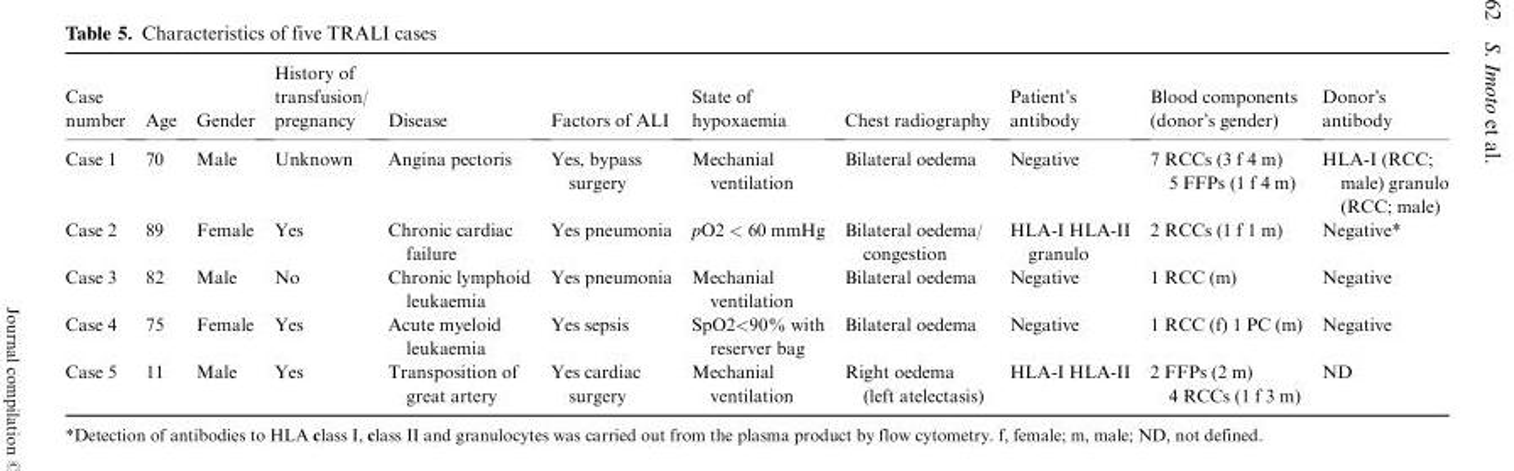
<table><thead><tr><td>Case number</td><td>Age</td><td>Gender</td><td>History of transfusion/ pregnancy</td><td>Disease</td><td>Factors of ALI</td><td>State of hypoxaemia</td><td>Chest radiography</td><td>Patient&#x27;s antibody</td><td>Blood components (donor&#x27;s gender)</td><td>Donor&#x27;s antibody</td></tr></thead><tbody><tr><td>Case 1</td><td>70</td><td>Male</td><td>Unknown</td><td>Angina pectoris</td><td>Yes, bypass surgery</td><td>Mechanial ventilation</td><td>Bilateral oedema</td><td>Negative</td><td>7 RCCs (3 f 4 m) 5 FFPs (1 f 4 m)</td><td>HLA-I (RCC; male) granulo (RCC; male)</td></tr><tr><td>Case 2</td><td>89</td><td>Female</td><td>Yes</td><td>Chronic cardiac failure</td><td>Yes pneumonia</td><td>pO2 &lt; 60 mmHg</td><td>Bilateral oedema/ congestion</td><td>HLA-I HLA-II granulo</td><td>2 RCCs (1 f 1 m)</td><td>Negative*</td></tr><tr><td>Case 3</td><td>82</td><td>Male</td><td>No</td><td>Chronic lymphoid leukaemia</td><td>Yes pneumonia</td><td>Mechanial ventilation</td><td>Bilateral oedema</td><td>Negative</td><td>1 RCC (m)</td><td>Negative</td></tr><tr><td>Case 4</td><td>75</td><td>Female</td><td>Yes</td><td>Acute myeloid leukaemia</td><td>Yes sepsis</td><td>SpO2&lt;90% with reserver bag</td><td>Bilateral oedema</td><td>Negative</td><td>1 RCC (f) 1 PC (m)</td><td>Negative</td></tr><tr><td>Case 5</td><td>11</td><td>Male</td><td>Yes</td><td>Transposition of great artery</td><td>Yes cardiac surgery</td><td>Mechanial ventilation</td><td>Right oedema (left atelectasis)</td><td>HLA-I HLA-II</td><td>2 FFPs (2 m) 4 RCCs (1 f 3 m)</td><td>ND</td></tr></tbody></table>